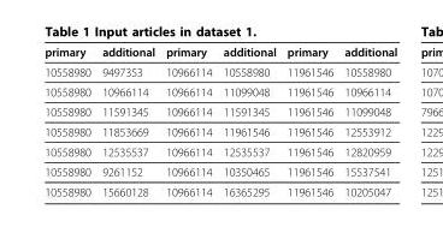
<table><thead><tr><td>primary</td><td>additional</td><td>primary</td><td>additional</td><td>primary</td><td>additional</td></tr></thead><tbody><tr><td>10558980</td><td>9497353</td><td>10966114</td><td>10558980</td><td>11961546</td><td>10558980</td></tr><tr><td>10558980</td><td>10966114</td><td>10966114</td><td>11099048</td><td>11961546</td><td>10966114</td></tr><tr><td>10558980</td><td>11591345</td><td>10966114</td><td>11591345</td><td>11961546</td><td>11099048</td></tr><tr><td>10558980</td><td>11853669</td><td>10966114</td><td>11961546</td><td>11961546</td><td>12553912</td></tr><tr><td>10558980</td><td>12535537</td><td>10966114</td><td>12535537</td><td>11961546</td><td>12820959</td></tr><tr><td>10558980</td><td>9261152</td><td>10966114</td><td>10350465</td><td>11961546</td><td>15537541</td></tr><tr><td>10558980</td><td>15660128</td><td>10966114</td><td>16365295</td><td>11961546</td><td>10205047</td></tr></tbody></table>